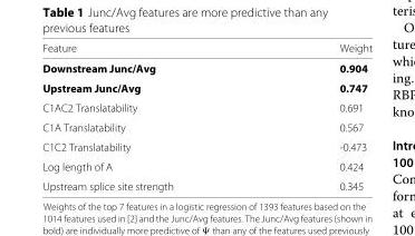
<table><thead><tr><td>Feature</td><td>Weight</td></tr></thead><tbody><tr><td>Downstream Junc/Avg</td><td>0.904</td></tr><tr><td>Upstream Junc/Avg</td><td>0.747</td></tr><tr><td>C1AC2 Translatability</td><td>0.691</td></tr><tr><td>C1A Translatability</td><td>0.567</td></tr><tr><td>C1C2 Translatability</td><td>-0.473</td></tr><tr><td>Log length of A</td><td>0.424</td></tr><tr><td>Upstream splice site strength</td><td>0.345</td></tr></tbody></table>